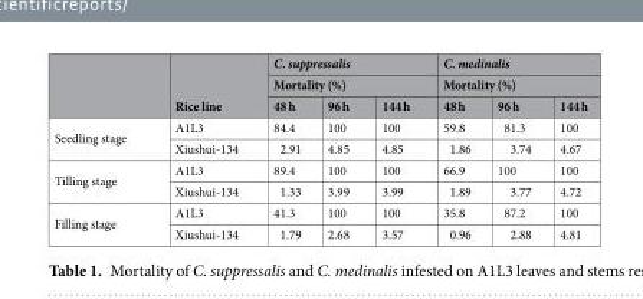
<table><thead><tr><td rowspan="3"></td><td rowspan="3">Rice line</td><td rowspan="2" colspan="3">C. suppressalis Mortality (%)</td><td rowspan="2" colspan="3">C. medinalis Mortality (%)</td></tr><tr></tr><tr><td>48 h</td><td>96 h</td><td>144 h</td><td>48 h</td><td>96 h</td><td>144 h</td></tr></thead><tbody><tr><td rowspan="2">Seedling stage</td><td>A1L3</td><td>84.4</td><td>100</td><td>100</td><td>59.8</td><td>81.3</td><td>100</td></tr><tr><td>Xiushui-134</td><td>2.91</td><td>4.85</td><td>4.85</td><td>1.86</td><td>3.74</td><td>4.67</td></tr><tr><td rowspan="2">Tilling stage</td><td>A1L3</td><td>89.4</td><td>100</td><td>100</td><td>66.9</td><td>100</td><td>100</td></tr><tr><td>Xiushui-134</td><td>1.33</td><td>3.99</td><td>3.99</td><td>1.89</td><td>3.77</td><td>4.72</td></tr><tr><td rowspan="2">Filling stage</td><td>A1L3</td><td>41.3</td><td>100</td><td>100</td><td>35.8</td><td>87.2</td><td>100</td></tr><tr><td>Xiushui-134</td><td>1.79</td><td>2.68</td><td>3.57</td><td>0.96</td><td>2.88</td><td>4.81</td></tr></tbody></table>